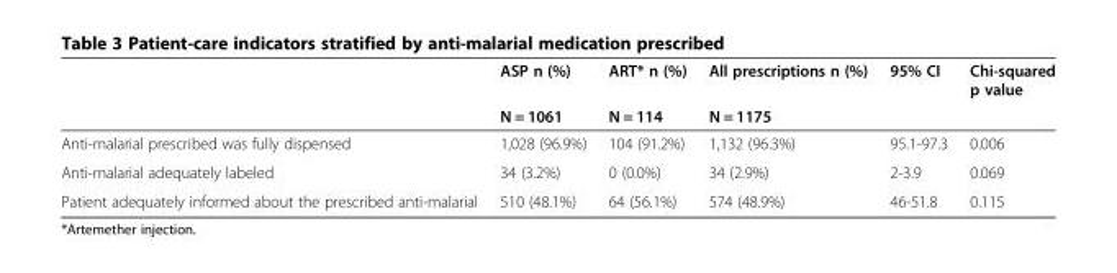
<table><thead><tr><td rowspan="2"></td><td rowspan="2">ASP n (%) N = 1061</td><td rowspan="2">ART* n (%) N = 114</td><td rowspan="2">All prescriptions n (%) N = 1175</td><td rowspan="2">95% CI</td><td rowspan="2">Chi-squared p value</td></tr><tr></tr></thead><tbody><tr><td>Anti-malarial prescribed was fully dispensed</td><td>1,028 (96.9%)</td><td>104 (91.2%)</td><td>1,132 (96.3%)</td><td>95.1-97.3</td><td>0.006</td></tr><tr><td>Anti-malarial adequately labeled</td><td>34 (3.2%)</td><td>0 (0.0%)</td><td>34 (2.9%)</td><td>2-3.9</td><td>0.069</td></tr><tr><td>Patient adequately informed about the prescribed anti-malarial</td><td>510 (48.1%)</td><td>64 (56.1%)</td><td>574 (48.9%)</td><td>46-51.8</td><td>0.115</td></tr></tbody></table>